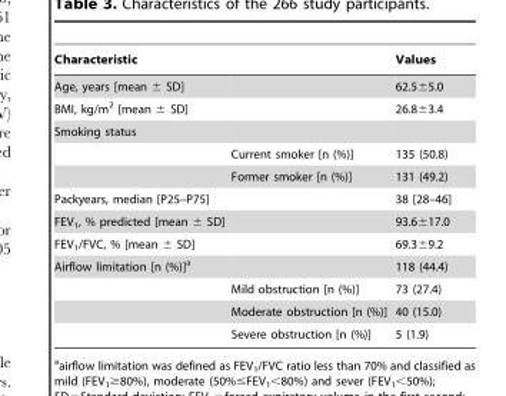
<table><thead><tr><td>Characteristic</td><td></td><td>Values</td></tr></thead><tbody><tr><td>Age, years [mean ± SD]</td><td></td><td>62.5±5.0</td></tr><tr><td>BMI, kg/m<sup>2</sup> [mean ± SD]</td><td></td><td>26.8±3.4</td></tr><tr><td colspan="3">Smoking status</td></tr><tr><td></td><td>Current smoker [n (%)]</td><td>135 (50.8)</td></tr><tr><td></td><td>Former smoker [n (%)]</td><td>131 (49.2)</td></tr><tr><td>Packyears, median [P25–P75]</td><td></td><td>38 [28–46]</td></tr><tr><td>FEV<sub>1</sub>, % predicted [mean ± SD]</td><td></td><td>93.6±17.0</td></tr><tr><td>FEV<sub>1</sub>/FVC, % [mean ± SD]</td><td></td><td>69.3±9.2</td></tr><tr><td rowspan="4">Airflow limitation [n (%)]<sup>a</sup></td><td></td><td>118 (44.4)</td></tr><tr><td>Mild obstruction [n (%)]</td><td>73 (27.4)</td></tr><tr><td>Moderate obstruction [n (%)]</td><td>40 (15.0)</td></tr><tr><td>Severe obstruction [n (%)]</td><td>5 (1.9)</td></tr></tbody></table>